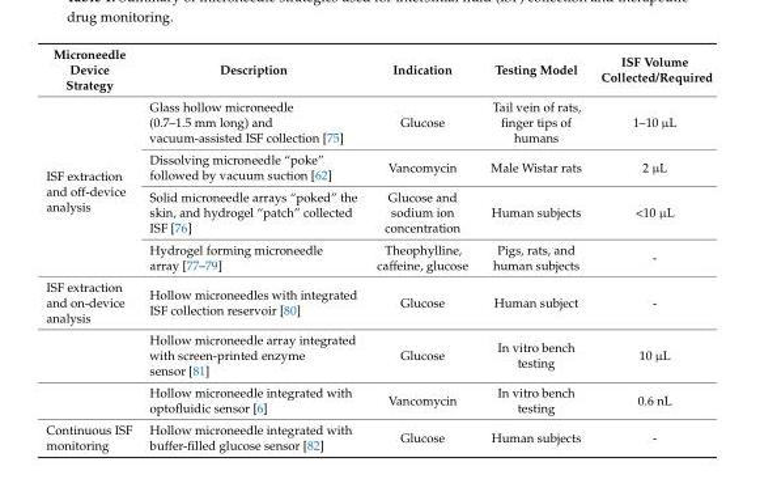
<table><thead><tr><td>Microneedle Device Strategy</td><td>Description</td><td>Indication</td><td>Testing Model</td><td>ISF Volume Collected/Required</td></tr></thead><tbody><tr><td rowspan="4">ISF extraction and off-device analysis</td><td>Glass hollow microneedle (0.7–1.5 mm long) and vacuum-assisted ISF collection [75]</td><td>Glucose</td><td>Tail vein of rats, finger tips of humans</td><td>1–10 µL</td></tr><tr><td>Dissolving microneedle “poke” followed by vacuum suction [62]</td><td>Vancomycin</td><td>Male Wistar rats</td><td>2 µL</td></tr><tr><td>Solid microneedle arrays “poked” the skin, and hydrogel “patch” collected ISF [76]</td><td>Glucose and sodium ion concentration</td><td>Human subjects</td><td>&lt;10 µL</td></tr><tr><td>Hydrogel forming microneedle array [77–79]</td><td>Theophylline, caffeine, glucose</td><td>Pigs, rats, and human subjects</td><td>-</td></tr><tr><td rowspan="3">ISF extraction and on-device analysis</td><td>Hollow microneedles with integrated ISF collection reservoir [80]</td><td>Glucose</td><td>Human subject</td><td>-</td></tr><tr><td>Hollow microneedle array integrated with screen-printed enzyme sensor [81]</td><td>Glucose</td><td>In vitro bench testing</td><td>10 µL</td></tr><tr><td>Hollow microneedle integrated with optofluidic sensor [6]</td><td>Vancomycin</td><td>In vitro bench testing</td><td>0.6 nL</td></tr><tr><td>Continuous ISF monitoring</td><td>Hollow microneedle integrated with buffer-filled glucose sensor [82]</td><td>Glucose</td><td>Human subjects</td><td>-</td></tr></tbody></table>